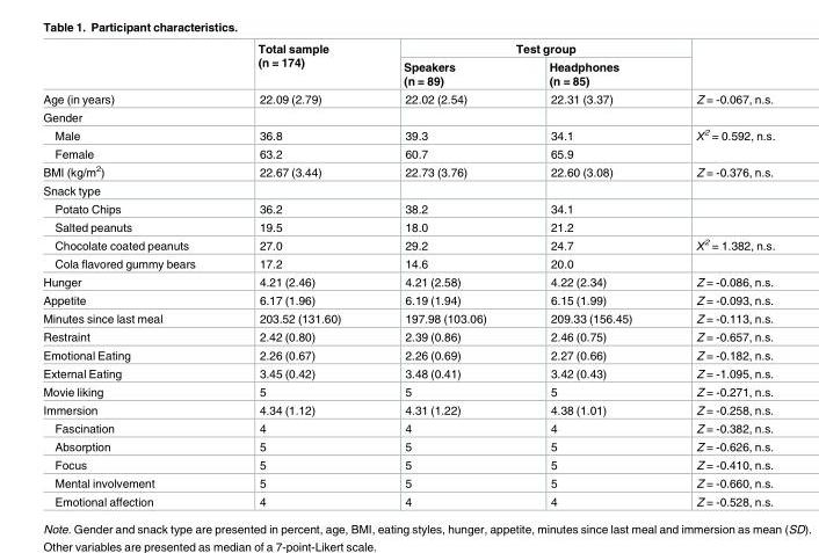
<table><thead><tr><td rowspan="2"></td><td rowspan="2">Total sample (n = 174)</td><td colspan="2">Test group</td><td rowspan="2"></td></tr><tr><td>Speakers (n = 89)</td><td>Headphones (n = 85)</td></tr></thead><tbody><tr><td>Age (in years)</td><td>22.09 (2.79)</td><td>22.02 (2.54)</td><td>22.31 (3.37)</td><td>Z = -0.067, n.s.</td></tr><tr><td colspan="5">Gender</td></tr><tr><td>Male</td><td>36.8</td><td>39.3</td><td>34.1</td><td rowspan="2">Χ<sup>2</sup> = 0.592, n.s.</td></tr><tr><td>Female</td><td>63.2</td><td>60.7</td><td>65.9</td></tr><tr><td>BMI (kg/m<sup>2</sup>)</td><td>22.67 (3.44)</td><td>22.73 (3.76)</td><td>22.60 (3.08)</td><td>Z = -0.376, n.s.</td></tr><tr><td colspan="5">Snack type</td></tr><tr><td>Potato Chips</td><td>36.2</td><td>38.2</td><td>34.1</td><td></td></tr><tr><td>Salted peanuts</td><td>19.5</td><td>18.0</td><td>21.2</td><td></td></tr><tr><td>Chocolate coated peanuts</td><td>27.0</td><td>29.2</td><td>24.7</td><td>Χ<sup>2</sup> = 1.382, n.s.</td></tr><tr><td>Cola flavored gummy bears</td><td>17.2</td><td>14.6</td><td>20.0</td><td></td></tr><tr><td>Hunger</td><td>4.21 (2.46)</td><td>4.21 (2.58)</td><td>4.22 (2.34)</td><td>Z = -0.086, n.s.</td></tr><tr><td>Appetite</td><td>6.17 (1.96)</td><td>6.19 (1.94)</td><td>6.15 (1.99)</td><td>Z = -0.093, n.s.</td></tr><tr><td>Minutes since last meal</td><td>203.52 (131.60)</td><td>197.98 (103.06)</td><td>209.33 (156.45)</td><td>Z = -0.113, n.s.</td></tr><tr><td>Restraint</td><td>2.42 (0.80)</td><td>2.39 (0.86)</td><td>2.46 (0.75)</td><td>Z = -0.657, n.s.</td></tr><tr><td>Emotional Eating</td><td>2.26 (0.67)</td><td>2.26 (0.69)</td><td>2.27 (0.66)</td><td>Z = -0.182, n.s.</td></tr><tr><td>External Eating</td><td>3.45 (0.42)</td><td>3.48 (0.41)</td><td>3.42 (0.43)</td><td>Z = -1.095, n.s.</td></tr><tr><td>Movie liking</td><td>5</td><td>5</td><td>5</td><td>Z = -0.271, n.s.</td></tr><tr><td>Immersion</td><td>4.34 (1.12)</td><td>4.31 (1.22)</td><td>4.38 (1.01)</td><td>Z = -0.258, n.s.</td></tr><tr><td>Fascination</td><td>4</td><td>4</td><td>4</td><td>Z = -0.382, n.s.</td></tr><tr><td>Absorption</td><td>5</td><td>5</td><td>5</td><td>Z = -0.626, n.s.</td></tr><tr><td>Focus</td><td>5</td><td>5</td><td>5</td><td>Z = -0.410, n.s.</td></tr><tr><td>Mental involvement</td><td>5</td><td>5</td><td>5</td><td>Z = -0.660, n.s.</td></tr><tr><td>Emotional affection</td><td>4</td><td>4</td><td>4</td><td>Z = -0.528, n.s.</td></tr></tbody></table>